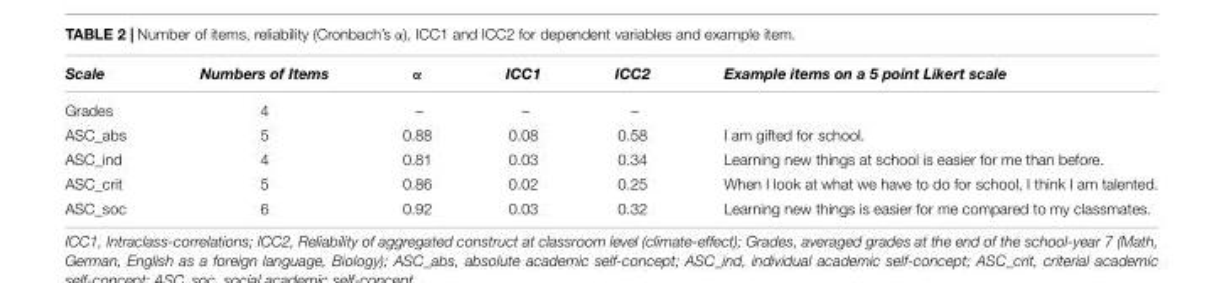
<table><thead><tr><td>Scale</td><td>Numbers of Items</td><td>α</td><td>ICC1</td><td>ICC2</td><td>Example items on a 5 point Likert scale</td></tr></thead><tbody><tr><td>Grades</td><td>4</td><td>–</td><td>–</td><td>–</td><td></td></tr><tr><td>ASC_abs</td><td>5</td><td>0.88</td><td>0.08</td><td>0.58</td><td>I am gifted for school.</td></tr><tr><td>ASC_ind</td><td>4</td><td>0.81</td><td>0.03</td><td>0.34</td><td>Learning new things at school is easier for me than before.</td></tr><tr><td>ASC_crit</td><td>5</td><td>0.86</td><td>0.02</td><td>0.25</td><td>When I look at what we have to do for school, I think I am talented.</td></tr><tr><td>ASC_soc</td><td>6</td><td>0.92</td><td>0.03</td><td>0.32</td><td>Learning new things is easier for me compared to my classmates.</td></tr></tbody></table>